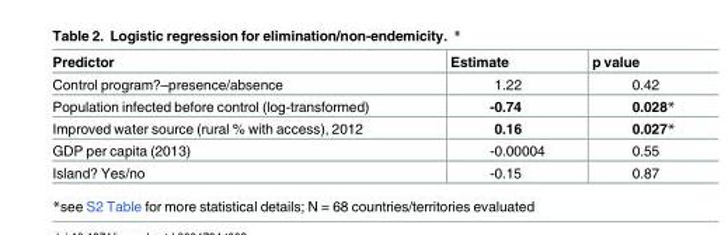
<table><thead><tr><td>Predictor</td><td>Estimate</td><td>p value</td></tr></thead><tbody><tr><td>Control program?–presence/absence</td><td>1.22</td><td>0.42</td></tr><tr><td>Population infected before control (log-transformed)</td><td>-0.74</td><td>0.028*</td></tr><tr><td>Improved water source (rural % with access), 2012</td><td>0.16</td><td>0.027*</td></tr><tr><td>GDP per capita (2013)</td><td>-0.00004</td><td>0.55</td></tr><tr><td>Island? Yes/no</td><td>-0.15</td><td>0.87</td></tr></tbody></table>